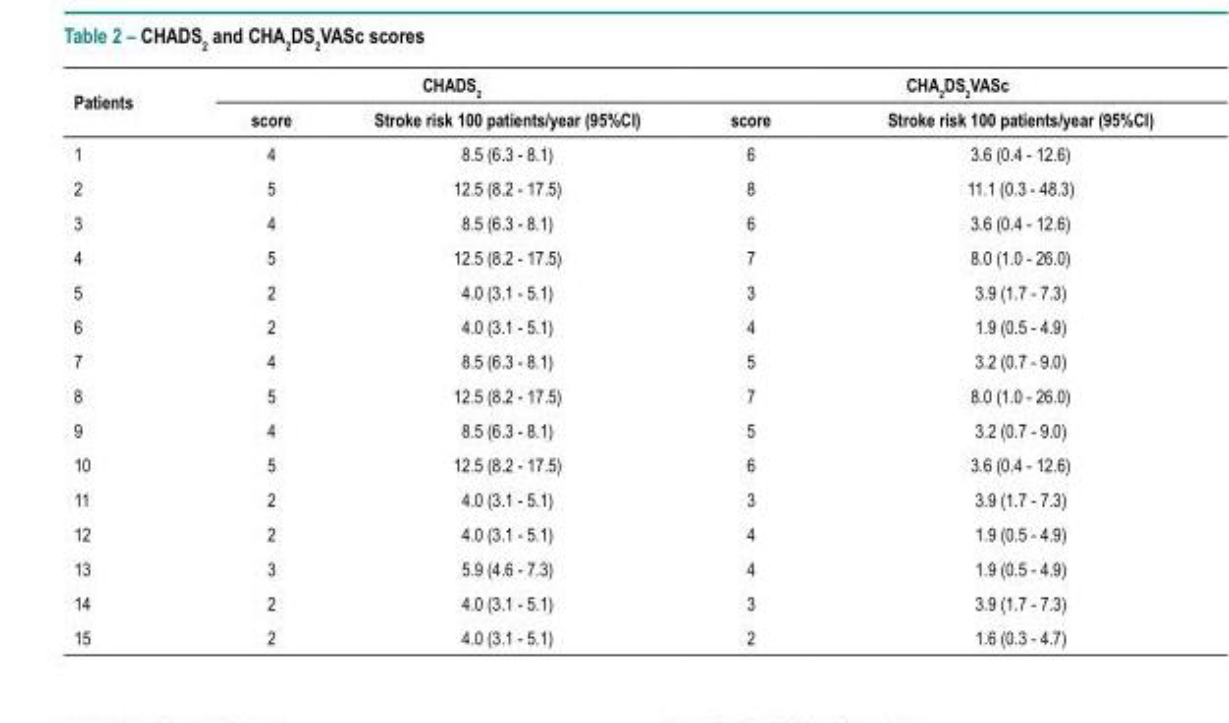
<table><thead><tr><td rowspan="2">Patients</td><td colspan="2">CHADS<sub>2</sub></td><td colspan="2">CHA<sub>2</sub>DS<sub>2</sub>VASc</td></tr><tr><td>score</td><td>Stroke risk 100 patients/year (95%CI)</td><td>score</td><td>Stroke risk 100 patients/year (95%CI)</td></tr></thead><tbody><tr><td>1</td><td>4</td><td>8.5 (6.3 - 8.1)</td><td>6</td><td>3.6 (0.4 - 12.6)</td></tr><tr><td>2</td><td>5</td><td>12.5 (8.2 - 17.5)</td><td>8</td><td>11.1 (0.3 - 48.3)</td></tr><tr><td>3</td><td>4</td><td>8.5 (6.3 - 8.1)</td><td>6</td><td>3.6 (0.4 - 12.6)</td></tr><tr><td>4</td><td>5</td><td>12.5 (8.2 - 17.5)</td><td>7</td><td>8.0 (1.0 - 26.0)</td></tr><tr><td>5</td><td>2</td><td>4.0 (3.1 - 5.1)</td><td>3</td><td>3.9 (1.7 - 7.3)</td></tr><tr><td>6</td><td>2</td><td>4.0 (3.1 - 5.1)</td><td>4</td><td>1.9 (0.5 - 4.9)</td></tr><tr><td>7</td><td>4</td><td>8.5 (6.3 - 8.1)</td><td>5</td><td>3.2 (0.7 - 9.0)</td></tr><tr><td>8</td><td>5</td><td>12.5 (8.2 - 17.5)</td><td>7</td><td>8.0 (1.0 - 26.0)</td></tr><tr><td>9</td><td>4</td><td>8.5 (6.3 - 8.1)</td><td>5</td><td>3.2 (0.7 - 9.0)</td></tr><tr><td>10</td><td>5</td><td>12.5 (8.2 - 17.5)</td><td>6</td><td>3.6 (0.4 - 12.6)</td></tr><tr><td>11</td><td>2</td><td>4.0 (3.1 - 5.1)</td><td>3</td><td>3.9 (1.7 - 7.3)</td></tr><tr><td>12</td><td>2</td><td>4.0 (3.1 - 5.1)</td><td>4</td><td>1.9 (0.5 - 4.9)</td></tr><tr><td>13</td><td>3</td><td>5.9 (4.6 - 7.3)</td><td>4</td><td>1.9 (0.5 - 4.9)</td></tr><tr><td>14</td><td>2</td><td>4.0 (3.1 - 5.1)</td><td>3</td><td>3.9 (1.7 - 7.3)</td></tr><tr><td>15</td><td>2</td><td>4.0 (3.1 - 5.1)</td><td>2</td><td>1.6 (0.3 - 4.7)</td></tr></tbody></table>